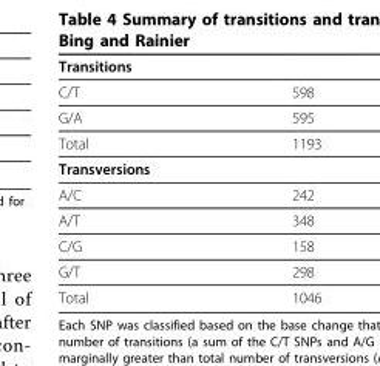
<table><thead><tr><td colspan="2">Transitions</td></tr><tr><td>C/T</td><td>598</td></tr></thead><tbody><tr><td>G/A</td><td>595</td></tr><tr><td>Total</td><td>1193</td></tr><tr><td colspan="2">Transversions</td></tr><tr><td>A/C</td><td>242</td></tr><tr><td>A/T</td><td>348</td></tr><tr><td>C/G</td><td>158</td></tr><tr><td>G/T</td><td>298</td></tr><tr><td>Total</td><td>1046</td></tr></tbody></table>